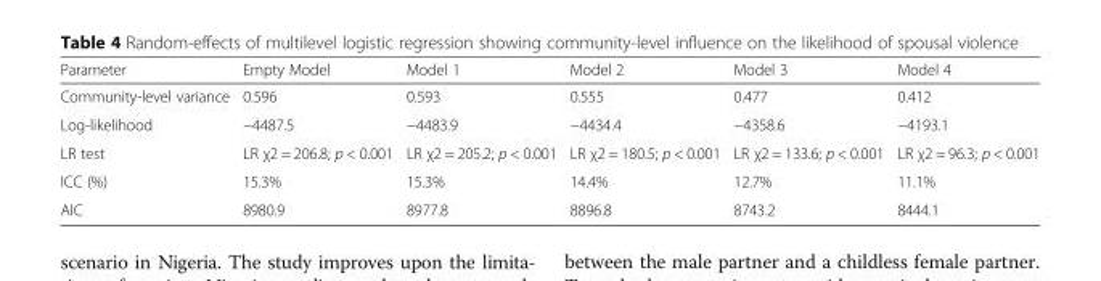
<table><thead><tr><td>Parameter</td><td>Empty Model</td><td>Model 1</td><td>Model 2</td><td>Model 3</td><td>Model 4</td></tr></thead><tbody><tr><td>Community-level variance</td><td>0.596</td><td>0.593</td><td>0.555</td><td>0.477</td><td>0.412</td></tr><tr><td>Log-likelihood</td><td>−4487.5</td><td>−4483.9</td><td>−4434.4</td><td>−4358.6</td><td>−4193.1</td></tr><tr><td>LR test</td><td>LR χ2 = 206.8; p &lt; 0.001</td><td>LR χ2 = 205.2; p &lt; 0.001</td><td>LR χ2 = 180.5; p &lt; 0.001</td><td>LR χ2 = 133.6; p &lt; 0.001</td><td>LR χ2 = 96.3; p &lt; 0.001</td></tr><tr><td>ICC (%)</td><td>15.3%</td><td>15.3%</td><td>14.4%</td><td>12.7%</td><td>11.1%</td></tr><tr><td>AIC</td><td>8980.9</td><td>8977.8</td><td>8896.8</td><td>8743.2</td><td>8444.1</td></tr></tbody></table>